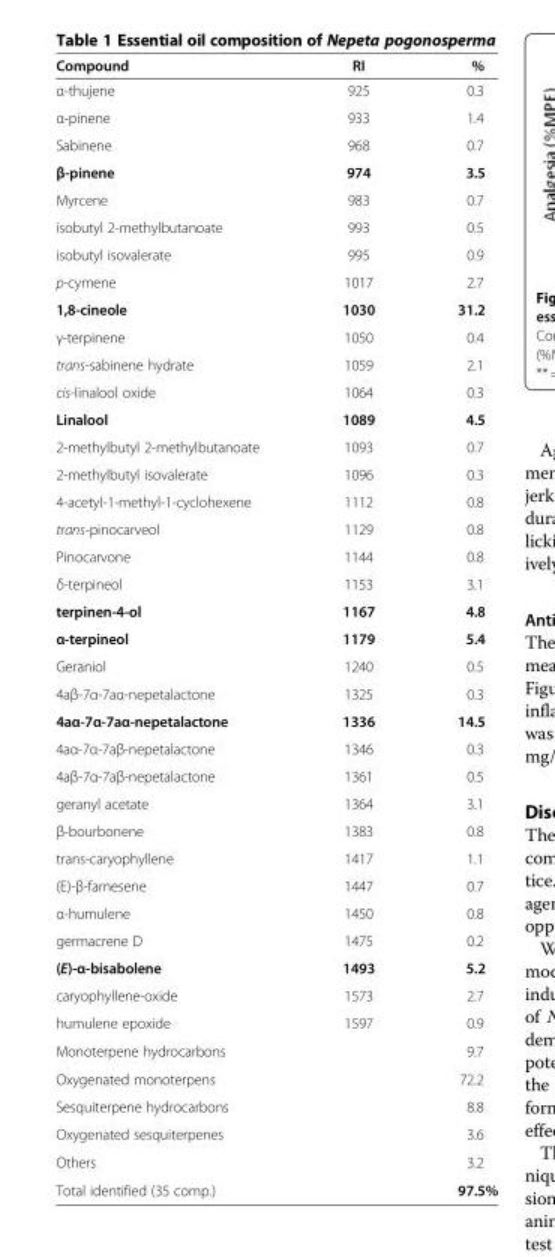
<table><thead><tr><td>Compound</td><td>RI</td><td>%</td></tr></thead><tbody><tr><td>α-thujene</td><td>925</td><td>0.3</td></tr><tr><td>α-pinene</td><td>933</td><td>1.4</td></tr><tr><td>Sabinene</td><td>968</td><td>0.7</td></tr><tr><td>β-pinene</td><td>974</td><td>3.5</td></tr><tr><td>Myrcene</td><td>983</td><td>0.7</td></tr><tr><td>isobutyl 2-methylbutanoate</td><td>993</td><td>0.5</td></tr><tr><td>isobutyl isovalerate</td><td>995</td><td>0.9</td></tr><tr><td>p-cymene</td><td>1017</td><td>2.7</td></tr><tr><td>1,8-cineole</td><td>1030</td><td>31.2</td></tr><tr><td>γ-terpinene</td><td>1050</td><td>0.4</td></tr><tr><td>trans-sabinene hydrate</td><td>1059</td><td>2.1</td></tr><tr><td>cis-linalool oxide</td><td>1064</td><td>0.3</td></tr><tr><td>Linalool</td><td>1089</td><td>4.5</td></tr><tr><td>2-methylbutyl 2-methylbutanoate</td><td>1093</td><td>0.7</td></tr><tr><td>2-methylbutyl isovalerate</td><td>1096</td><td>0.3</td></tr><tr><td>4-acetyl-1-methyl-1-cyclohexene</td><td>1112</td><td>0.8</td></tr><tr><td>trans-pinocarveol</td><td>1129</td><td>0.8</td></tr><tr><td>Pinocarvone</td><td>1144</td><td>0.8</td></tr><tr><td>δ-terpineol</td><td>1153</td><td>3.1</td></tr><tr><td>terpinen-4-ol</td><td>1167</td><td>4.8</td></tr><tr><td>α-terpineol</td><td>1179</td><td>5.4</td></tr><tr><td>Geraniol</td><td>1240</td><td>0.5</td></tr><tr><td>4aβ-7α-7aα-nepetalactone</td><td>1325</td><td>0.3</td></tr><tr><td>4aα-7α-7aα-nepetalactone</td><td>1336</td><td>14.5</td></tr><tr><td>4aα-7α-7aβ-nepetalactone</td><td>1346</td><td>0.3</td></tr><tr><td>4aβ-7α-7aβ-nepetalactone</td><td>1361</td><td>0.5</td></tr><tr><td>geranyl acetate</td><td>1364</td><td>3.1</td></tr><tr><td>β-bourbonene</td><td>1383</td><td>0.8</td></tr><tr><td>trans-caryophyllene</td><td>1417</td><td>1.1</td></tr><tr><td>(E)-β-farnesene</td><td>1447</td><td>0.7</td></tr><tr><td>α-humulene</td><td>1450</td><td>0.8</td></tr><tr><td>germacrene D</td><td>1475</td><td>0.2</td></tr><tr><td>(E)-α-bisabolene</td><td>1493</td><td>5.2</td></tr><tr><td>caryophyllene-oxide</td><td>1573</td><td>2.7</td></tr><tr><td>humulene epoxide</td><td>1597</td><td>0.9</td></tr><tr><td>Monoterpene hydrocarbons</td><td></td><td>9.7</td></tr><tr><td>Oxygenated monoterpens</td><td></td><td>72.2</td></tr><tr><td>Sesquiterpene hydrocarbons</td><td></td><td>8.8</td></tr><tr><td>Oxygenated sesquiterpenes</td><td></td><td>3.6</td></tr><tr><td>Others</td><td></td><td>3.2</td></tr><tr><td>Total identified (35 comp.)</td><td></td><td>97.5%</td></tr></tbody></table>